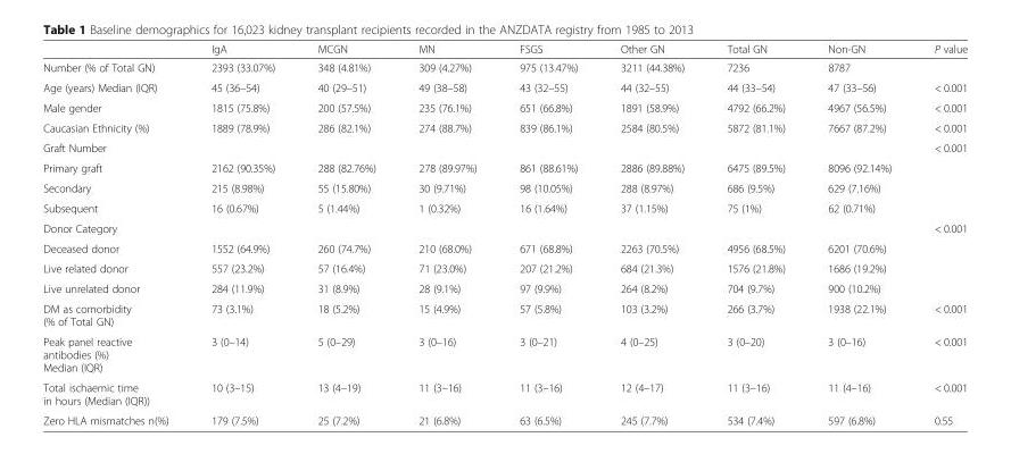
<table><thead><tr><td></td><td>IgA</td><td>MCGN</td><td>MN</td><td>FSGS</td><td>Other GN</td><td>Total GN</td><td>Non-GN</td><td>P value</td></tr></thead><tbody><tr><td>Number (% of Total GN)</td><td>2393 (33.07%)</td><td>348 (4.81%)</td><td>309 (4.27%)</td><td>975 (13.47%)</td><td>3211 (44.38%)</td><td>7236</td><td>8787</td><td></td></tr><tr><td>Age (years) Median (IQR)</td><td>45 (36–54)</td><td>40 (29–51)</td><td>49 (38–58)</td><td>43 (32–55)</td><td>44 (32–55)</td><td>44 (33–54)</td><td>47 (33–56)</td><td>&lt; 0.001</td></tr><tr><td>Male gender</td><td>1815 (75.8%)</td><td>200 (57.5%)</td><td>235 (76.1%)</td><td>651 (66.8%)</td><td>1891 (58.9%)</td><td>4792 (66.2%)</td><td>4967 (56.5%)</td><td>&lt; 0.001</td></tr><tr><td>Caucasian Ethnicity (%)</td><td>1889 (78.9%)</td><td>286 (82.1%)</td><td>274 (88.7%)</td><td>839 (86.1%)</td><td>2584 (80.5%)</td><td>5872 (81.1%)</td><td>7667 (87.2%)</td><td>&lt; 0.001</td></tr><tr><td>Graft Number</td><td></td><td></td><td></td><td></td><td></td><td></td><td></td><td>&lt; 0.001</td></tr><tr><td>Primary graft</td><td>2162 (90.35%)</td><td>288 (82.76%)</td><td>278 (89.97%)</td><td>861 (88.61%)</td><td>2886 (89.88%)</td><td>6475 (89.5%)</td><td>8096 (92.14%)</td><td></td></tr><tr><td>Secondary</td><td>215 (8.98%)</td><td>55 (15.80%)</td><td>30 (9.71%)</td><td>98 (10.05%)</td><td>288 (8.97%)</td><td>686 (9.5%)</td><td>629 (7.16%)</td><td></td></tr><tr><td>Subsequent</td><td>16 (0.67%)</td><td>5 (1.44%)</td><td>1 (0.32%)</td><td>16 (1.64%)</td><td>37 (1.15%)</td><td>75 (1%)</td><td>62 (0.71%)</td><td></td></tr><tr><td>Donor Category</td><td></td><td></td><td></td><td></td><td></td><td></td><td></td><td>&lt; 0.001</td></tr><tr><td>Deceased donor</td><td>1552 (64.9%)</td><td>260 (74.7%)</td><td>210 (68.0%)</td><td>671 (68.8%)</td><td>2263 (70.5%)</td><td>4956 (68.5%)</td><td>6201 (70.6%)</td><td></td></tr><tr><td>Live related donor</td><td>557 (23.2%)</td><td>57 (16.4%)</td><td>71 (23.0%)</td><td>207 (21.2%)</td><td>684 (21.3%)</td><td>1576 (21.8%)</td><td>1686 (19.2%)</td><td></td></tr><tr><td>Live unrelated donor</td><td>284 (11.9%)</td><td>31 (8.9%)</td><td>28 (9.1%)</td><td>97 (9.9%)</td><td>264 (8.2%)</td><td>704 (9.7%)</td><td>900 (10.2%)</td><td></td></tr><tr><td>DM as comorbidity (% of Total GN)</td><td>73 (3.1%)</td><td>18 (5.2%)</td><td>15 (4.9%)</td><td>57 (5.8%)</td><td>103 (3.2%)</td><td>266 (3.7%)</td><td>1938 (22.1%)</td><td>&lt; 0.001</td></tr><tr><td>Peak panel reactive antibodies (%) Median (IQR)</td><td>3 (0–14)</td><td>5 (0–29)</td><td>3 (0–16)</td><td>3 (0–21)</td><td>4 (0–25)</td><td>3 (0–20)</td><td>3 (0–16)</td><td>&lt; 0.001</td></tr><tr><td>Total ischaemic time in hours (Median (IQR))</td><td>10 (3–15)</td><td>13 (4–19)</td><td>11 (3–16)</td><td>11 (3–16)</td><td>12 (4–17)</td><td>11 (3–16)</td><td>11 (4–16)</td><td>&lt; 0.001</td></tr><tr><td>Zero HLA mismatches n(%)</td><td>179 (7.5%)</td><td>25 (7.2%)</td><td>21 (6.8%)</td><td>63 (6.5%)</td><td>245 (7.7%)</td><td>534 (7.4%)</td><td>597 (6.8%)</td><td>0.55</td></tr></tbody></table>